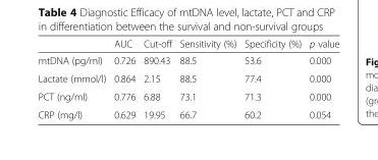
<table><thead><tr><td></td><td>AUC</td><td>Cut-off</td><td>Sensitivity (%)</td><td>Specificity (%)</td><td>p value</td></tr></thead><tbody><tr><td>mtDNA (pg/ml)</td><td>0.726</td><td>890.43</td><td>88.5</td><td>53.6</td><td>0.000</td></tr><tr><td>Lactate (mmol/l)</td><td>0.864</td><td>2.15</td><td>88.5</td><td>77.4</td><td>0.000</td></tr><tr><td>PCT (ng/ml)</td><td>0.776</td><td>6.88</td><td>73.1</td><td>71.3</td><td>0.000</td></tr><tr><td>CRP (mg/l)</td><td>0.629</td><td>19.95</td><td>66.7</td><td>60.2</td><td>0.054</td></tr></tbody></table>